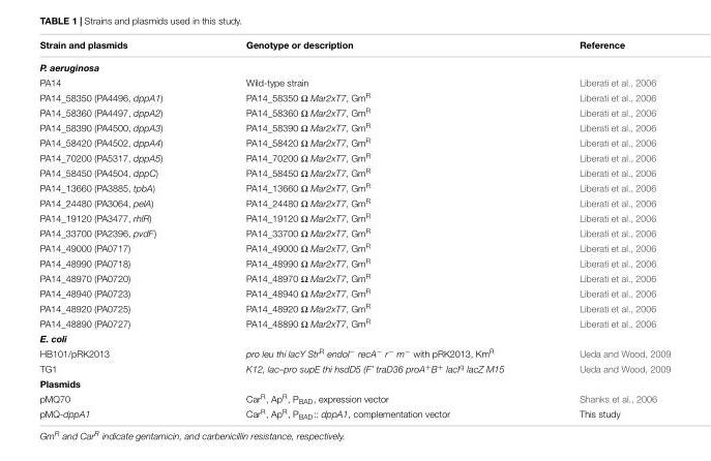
<table><thead><tr><td>Strain and plasmids</td><td>Genotype or description</td><td>Reference</td></tr></thead><tbody><tr><td colspan="3">P. aeruginosa</td></tr><tr><td>PA14</td><td>Wild-type strain</td><td>Liberati et al., 2006</td></tr><tr><td>PA14_58350 (PA4496, dppA1)</td><td>PA14_58350 Ω Mar2xT7, Gm<sup>R</sup></td><td>Liberati et al., 2006</td></tr><tr><td>PA14_58360 (PA4497, dppA2)</td><td>PA14_58360 Ω Mar2xT7, Gm<sup>R</sup></td><td>Liberati et al., 2006</td></tr><tr><td>PA14_58390 (PA4500, dppA3)</td><td>PA14_58390 Ω Mar2xT7, Gm<sup>R</sup></td><td>Liberati et al., 2006</td></tr><tr><td>PA14_58420 (PA4502, dppA4)</td><td>PA14_58420 Ω Mar2xT7, Gm<sup>R</sup></td><td>Liberati et al., 2006</td></tr><tr><td>PA14_70200 (PA5317, dppA5)</td><td>PA14_70200 Ω Mar2xT7, Gm<sup>R</sup></td><td>Liberati et al., 2006</td></tr><tr><td>PA14_58450 (PA4504, dppC)</td><td>PA14_58450 Ω Mar2xT7, Gm<sup>R</sup></td><td>Liberati et al., 2006</td></tr><tr><td>PA14_13660 (PA3885, tpbA)</td><td>PA14_13660 Ω Mar2xT7, Gm<sup>R</sup></td><td>Liberati et al., 2006</td></tr><tr><td>PA14_24480 (PA3064, pelA)</td><td>PA14_24480 Ω Mar2xT7, Gm<sup>R</sup></td><td>Liberati et al., 2006</td></tr><tr><td>PA14_19120 (PA3477, rhlR)</td><td>PA14_19120 Ω Mar2xT7, Gm<sup>R</sup></td><td>Liberati et al., 2006</td></tr><tr><td>PA14_33700 (PA2396, pvdF)</td><td>PA14_33700 Ω Mar2xT7, Gm<sup>R</sup></td><td>Liberati et al., 2006</td></tr><tr><td>PA14_49000 (PA0717)</td><td>PA14_49000 Ω Mar2xT7, Gm<sup>R</sup></td><td>Liberati et al., 2006</td></tr><tr><td>PA14_48990 (PA0718)</td><td>PA14_48990 Ω Mar2xT7, Gm<sup>R</sup></td><td>Liberati et al., 2006</td></tr><tr><td>PA14_48970 (PA0720)</td><td>PA14_48970 Ω Mar2xT7, Gm<sup>R</sup></td><td>Liberati et al., 2006</td></tr><tr><td>PA14_48940 (PA0723)</td><td>PA14_48940 Ω Mar2xT7, Gm<sup>R</sup></td><td>Liberati et al., 2006</td></tr><tr><td>PA14_48920 (PA0725)</td><td>PA14_48920 Ω Mar2xT7, Gm<sup>R</sup></td><td>Liberati et al., 2006</td></tr><tr><td>PA14_48890 (PA0727)</td><td>PA14_48890 Ω Mar2xT7, Gm<sup>R</sup></td><td>Liberati et al., 2006</td></tr><tr><td colspan="3">E. coli</td></tr><tr><td>HB101/pRK2013</td><td>pro leu thi lacY Str<sup>R</sup> endol<sup>−</sup> recA<sup>−</sup> r<sup>−</sup> m<sup>−</sup> with pRK2013, Km<sup>R</sup></td><td>Ueda and Wood, 2009</td></tr><tr><td>TG1</td><td>K12, lac–pro supE thi hsdD5 (F’ traD36 proA<sup>+</sup>B<sup>+</sup> lacI<sup>q</sup> lacZ M15</td><td>Ueda and Wood, 2009</td></tr><tr><td colspan="3">Plasmids</td></tr><tr><td>pMQ70</td><td>Car<sup>R</sup>, Ap<sup>R</sup>, P<sub>BAD</sub>, expression vector</td><td>Shanks et al., 2006</td></tr><tr><td>pMQ-dppA1</td><td>Car<sup>R</sup>, Ap<sup>R</sup>, P<sub>BAD</sub>:: dppA1, complementation vector</td><td>This study</td></tr></tbody></table>